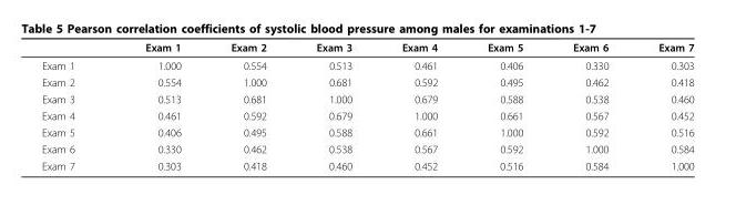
<table><thead><tr><td></td><td>Exam 1</td><td>Exam 2</td><td>Exam 3</td><td>Exam 4</td><td>Exam 5</td><td>Exam 6</td><td>Exam 7</td></tr></thead><tbody><tr><td>Exam 1</td><td>1.000</td><td>0.554</td><td>0.513</td><td>0.461</td><td>0.406</td><td>0.330</td><td>0.303</td></tr><tr><td>Exam 2</td><td>0.554</td><td>1.000</td><td>0.681</td><td>0.592</td><td>0.495</td><td>0.462</td><td>0.418</td></tr><tr><td>Exam 3</td><td>0.513</td><td>0.681</td><td>1.000</td><td>0.679</td><td>0.588</td><td>0.538</td><td>0.460</td></tr><tr><td>Exam 4</td><td>0.461</td><td>0.592</td><td>0.679</td><td>1.000</td><td>0.661</td><td>0.567</td><td>0.452</td></tr><tr><td>Exam 5</td><td>0.406</td><td>0.495</td><td>0.588</td><td>0.661</td><td>1.000</td><td>0.592</td><td>0.516</td></tr><tr><td>Exam 6</td><td>0.330</td><td>0.462</td><td>0.538</td><td>0.567</td><td>0.592</td><td>1.000</td><td>0.584</td></tr><tr><td>Exam 7</td><td>0.303</td><td>0.418</td><td>0.460</td><td>0.452</td><td>0.516</td><td>0.584</td><td>1.000</td></tr></tbody></table>